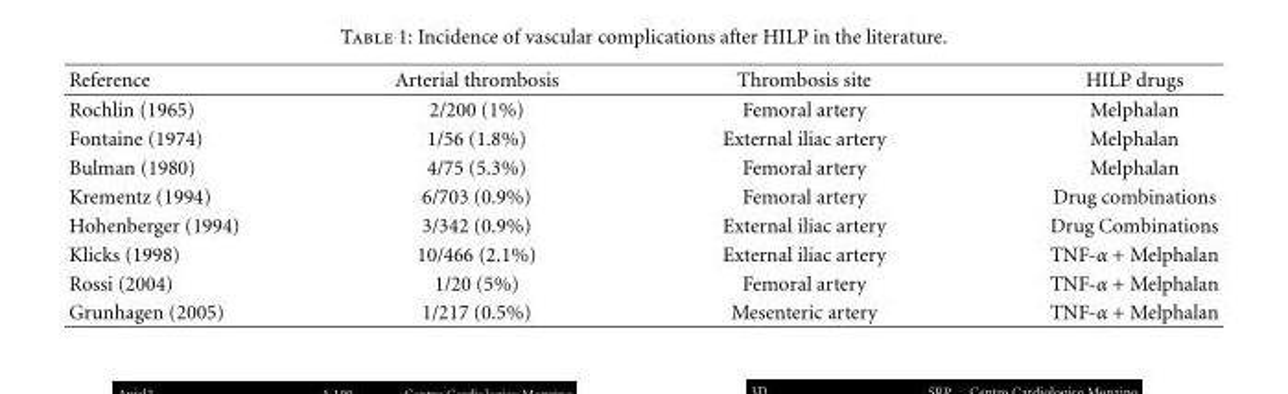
<table><thead><tr><td>Reference</td><td>Arterial thrombosis</td><td>Thrombosis site</td><td>HILP drugs</td></tr></thead><tbody><tr><td>Rochlin (1965)</td><td>2/200 (1%)</td><td>Femoral artery</td><td>Melphalan</td></tr><tr><td>Fontaine (1974)</td><td>1/56 (1.8%)</td><td>External iliac artery</td><td>Melphalan</td></tr><tr><td>Bulman (1980)</td><td>4/75 (5.3%)</td><td>Femoral artery</td><td>Melphalan</td></tr><tr><td>Krementz (1994)</td><td>6/703 (0.9%)</td><td>Femoral artery</td><td>Drug combinations</td></tr><tr><td>Hohenberger (1994)</td><td>3/342 (0.9%)</td><td>External iliac artery</td><td>Drug Combinations</td></tr><tr><td>Klicks (1998)</td><td>10/466 (2.1%)</td><td>External iliac artery</td><td>TNF-α + Melphalan</td></tr><tr><td>Rossi (2004)</td><td>1/20 (5%)</td><td>Femoral artery</td><td>TNF-α + Melphalan</td></tr><tr><td>Grunhagen (2005)</td><td>1/217 (0.5%)</td><td>Mesenteric artery</td><td>TNF-α + Melphalan</td></tr></tbody></table>